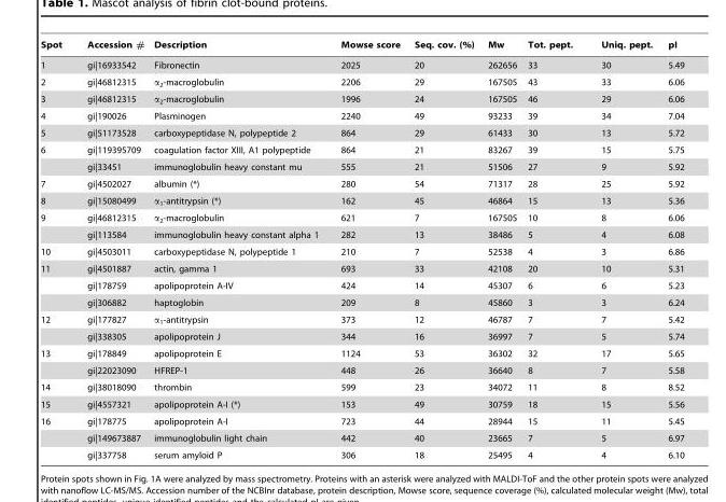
<table><thead><tr><td>Spot</td><td>Accession #</td><td>Description</td><td>Mowse score</td><td>Seq. cov. (%)</td><td>Mw</td><td>Tot. pept.</td><td>Uniq. pept.</td><td>pI</td></tr></thead><tbody><tr><td>1</td><td>gi|16933542</td><td>Fibronectin</td><td>2025</td><td>20</td><td>262656</td><td>33</td><td>30</td><td>5.49</td></tr><tr><td>2</td><td>gi|46812315</td><td>α<sub>2</sub>-macroglobulin</td><td>2206</td><td>29</td><td>167505</td><td>43</td><td>33</td><td>6.06</td></tr><tr><td>3</td><td>gi|46812315</td><td>α<sub>2</sub>-macroglobulin</td><td>1996</td><td>24</td><td>167505</td><td>46</td><td>29</td><td>6.06</td></tr><tr><td>4</td><td>gi|190026</td><td>Plasminogen</td><td>2240</td><td>49</td><td>93233</td><td>39</td><td>34</td><td>7.04</td></tr><tr><td>5</td><td>gi|51173528</td><td>carboxypeptidase N, polypeptide 2</td><td>864</td><td>29</td><td>61433</td><td>30</td><td>13</td><td>5.72</td></tr><tr><td rowspan="2">6</td><td>gi|119395709</td><td>coagulation factor XIII, A1 polypeptide</td><td>864</td><td>21</td><td>83267</td><td>39</td><td>15</td><td>5.75</td></tr><tr><td>gi|33451</td><td>immunoglobulin heavy constant mu</td><td>555</td><td>21</td><td>51506</td><td>27</td><td>9</td><td>5.92</td></tr><tr><td>7</td><td>gi|4502027</td><td>albumin (*)</td><td>280</td><td>54</td><td>71317</td><td>28</td><td>25</td><td>5.92</td></tr><tr><td>8</td><td>gi|15080499</td><td>α<sub>1</sub>-antitrypsin (*)</td><td>162</td><td>45</td><td>46864</td><td>15</td><td>13</td><td>5.36</td></tr><tr><td rowspan="2">9</td><td>gi|46812315</td><td>α<sub>2</sub>-macroglobulin</td><td>621</td><td>7</td><td>167505</td><td>10</td><td>8</td><td>6.06</td></tr><tr><td>gi|113584</td><td>immunoglobulin heavy constant alpha 1</td><td>282</td><td>13</td><td>38486</td><td>5</td><td>4</td><td>6.08</td></tr><tr><td>10</td><td>gi|4503011</td><td>carboxypeptidase N, polypeptide 1</td><td>210</td><td>7</td><td>52538</td><td>4</td><td>3</td><td>6.86</td></tr><tr><td rowspan="3">11</td><td>gi|4501887</td><td>actin, gamma 1</td><td>693</td><td>33</td><td>42108</td><td>20</td><td>10</td><td>5.31</td></tr><tr><td>gi|178759</td><td>apolipoprotein A-IV</td><td>424</td><td>14</td><td>45307</td><td>6</td><td>6</td><td>5.23</td></tr><tr><td>gi|306882</td><td>haptoglobin</td><td>209</td><td>8</td><td>45860</td><td>3</td><td>3</td><td>6.24</td></tr><tr><td rowspan="2">12</td><td>gi|177827</td><td>α<sub>1</sub>-antitrypsin</td><td>373</td><td>12</td><td>46787</td><td>7</td><td>7</td><td>5.42</td></tr><tr><td>gi|338305</td><td>apolipoprotein J</td><td>344</td><td>16</td><td>36997</td><td>7</td><td>5</td><td>5.74</td></tr><tr><td rowspan="2">13</td><td>gi|178849</td><td>apolipoprotein E</td><td>1124</td><td>53</td><td>36302</td><td>32</td><td>17</td><td>5.65</td></tr><tr><td>gi|22023090</td><td>HFREP-1</td><td>448</td><td>26</td><td>36640</td><td>8</td><td>7</td><td>5.58</td></tr><tr><td>14</td><td>gi|38018090</td><td>thrombin</td><td>599</td><td>23</td><td>34072</td><td>11</td><td>8</td><td>8.52</td></tr><tr><td>15</td><td>gi|4557321</td><td>apolipoprotein A-I (*)</td><td>153</td><td>49</td><td>30759</td><td>18</td><td>15</td><td>5.56</td></tr><tr><td rowspan="3">16</td><td>gi|178775</td><td>apolipoprotein A-I</td><td>723</td><td>44</td><td>28944</td><td>15</td><td>11</td><td>5.45</td></tr><tr><td>gi|149673887</td><td>immunoglobulin light chain</td><td>442</td><td>40</td><td>23665</td><td>7</td><td>5</td><td>6.97</td></tr><tr><td>gi|337758</td><td>serum amyloid P</td><td>306</td><td>18</td><td>25495</td><td>4</td><td>4</td><td>6.10</td></tr></tbody></table>